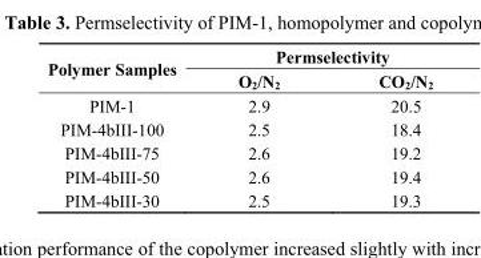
<table><thead><tr><td rowspan="2">Polymer Samples</td><td colspan="2">Permselectivity</td></tr><tr><td>O<sub>2</sub>/N<sub>2</sub></td><td>CO<sub>2</sub>/N<sub>2</sub></td></tr></thead><tbody><tr><td>PIM-1</td><td>2.9</td><td>20.5</td></tr><tr><td>PIM-4bIII-100</td><td>2.5</td><td>18.4</td></tr><tr><td>PIM-4bIII-75</td><td>2.6</td><td>19.2</td></tr><tr><td>PIM-4bIII-50</td><td>2.6</td><td>19.4</td></tr><tr><td>PIM-4bIII-30</td><td>2.5</td><td>19.3</td></tr></tbody></table>